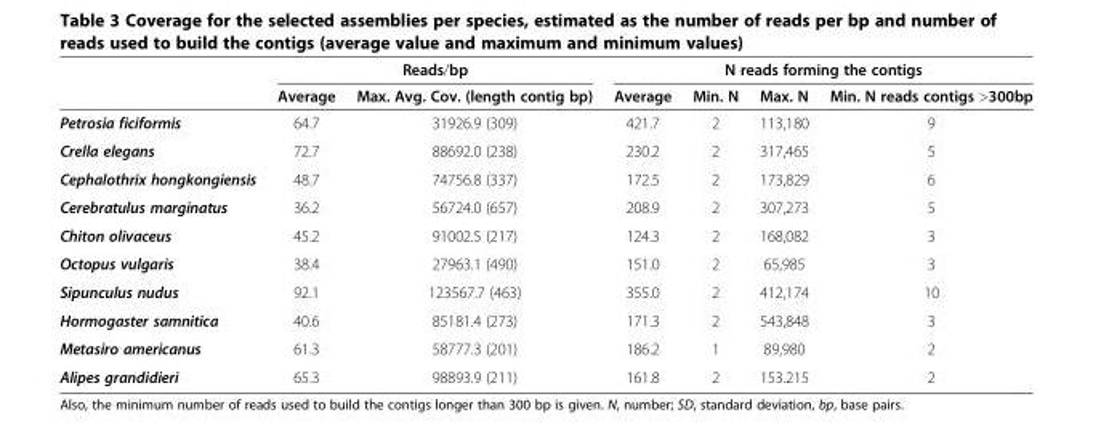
<table><thead><tr><td rowspan="2"></td><td colspan="2">Reads/bp</td><td colspan="4">N reads forming the contigs</td></tr><tr><td>Average</td><td>Max. Avg. Cov. (length contig bp)</td><td>Average</td><td>Min. N</td><td>Max. N</td><td>Min. N reads contigs &gt;300bp</td></tr></thead><tbody><tr><td>Petrosia ficiformis</td><td>64.7</td><td>31926.9 (309)</td><td>421.7</td><td>2</td><td>113,180</td><td>9</td></tr><tr><td>Crella elegans</td><td>72.7</td><td>88692.0 (238)</td><td>230.2</td><td>2</td><td>317,465</td><td>5</td></tr><tr><td>Cephalothrix hongkongiensis</td><td>48.7</td><td>74756.8 (337)</td><td>172.5</td><td>2</td><td>173,829</td><td>6</td></tr><tr><td>Cerebratulus marginatus</td><td>36.2</td><td>56724.0 (657)</td><td>208.9</td><td>2</td><td>307,273</td><td>5</td></tr><tr><td>Chiton olivaceus</td><td>45.2</td><td>91002.5 (217)</td><td>124.3</td><td>2</td><td>168,082</td><td>3</td></tr><tr><td>Octopus vulgaris</td><td>38.4</td><td>27963.1 (490)</td><td>151.0</td><td>2</td><td>65,985</td><td>3</td></tr><tr><td>Sipunculus nudus</td><td>92.1</td><td>123567.7 (463)</td><td>355.0</td><td>2</td><td>412,174</td><td>10</td></tr><tr><td>Hormogaster samnitica</td><td>40.6</td><td>85181.4 (273)</td><td>171.3</td><td>2</td><td>543,848</td><td>3</td></tr><tr><td>Metasiro americanus</td><td>61.3</td><td>58777.3 (201)</td><td>186.2</td><td>1</td><td>89,980</td><td>2</td></tr><tr><td>Alipes grandidieri</td><td>65.3</td><td>98893.9 (211)</td><td>161.8</td><td>2</td><td>153.215</td><td>2</td></tr></tbody></table>